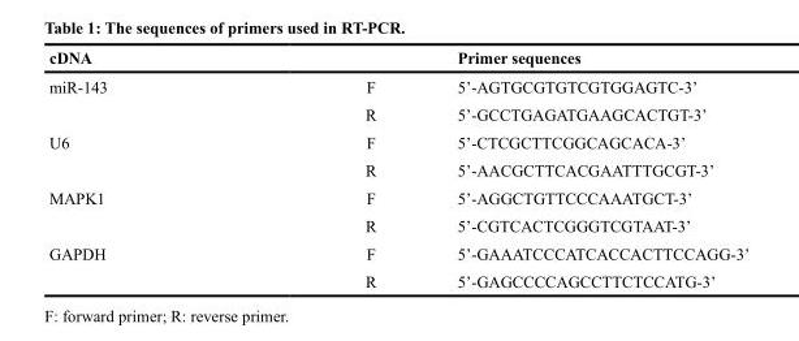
<table><thead><tr><td>cDNA</td><td></td><td>Primer sequences</td></tr></thead><tbody><tr><td rowspan="2">miR-143</td><td>F</td><td>5’-AGTGCGTGTCGTGGAGTC-3’</td></tr><tr><td>R</td><td>5’-GCCTGAGATGAAGCACTGT-3’</td></tr><tr><td rowspan="2">U6</td><td>F</td><td>5’-CTCGCTTCGGCAGCACA-3’</td></tr><tr><td>R</td><td>5’-AACGCTTCACGAATTTGCGT-3’</td></tr><tr><td rowspan="2">MAPK1</td><td>F</td><td>5’-AGGCTGTTCCCAAATGCT-3’</td></tr><tr><td>R</td><td>5’-CGTCACTCGGGTCGTAAT-3’</td></tr><tr><td rowspan="2">GAPDH</td><td>F</td><td>5’-GAAATCCCATCACCACTTCCAGG-3’</td></tr><tr><td>R</td><td>5’-GAGCCCCAGCCTTCTCCATG-3’</td></tr></tbody></table>